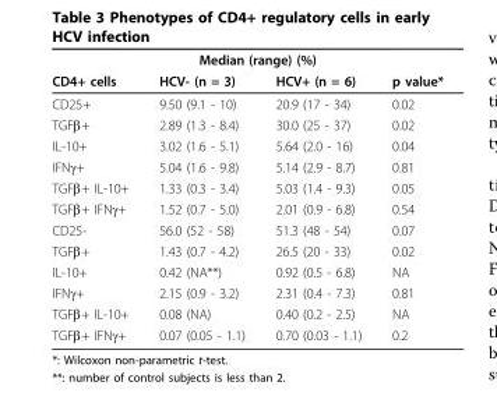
<table><thead><tr><td colspan="4">Median (range) (%)</td></tr><tr><td>CD4+ cells</td><td>HCV- (n = 3)</td><td>HCV+ (n = 6)</td><td>p value*</td></tr></thead><tbody><tr><td>CD25+</td><td>9.50 (9.1 - 10)</td><td>20.9 (17 - 34)</td><td>0.02</td></tr><tr><td>TGFβ+</td><td>2.89 (1.3 - 8.4)</td><td>30.0 (25 - 37)</td><td>0.02</td></tr><tr><td>IL-10+</td><td>3.02 (1.6 - 5.1)</td><td>5.64 (2.0 - 16)</td><td>0.04</td></tr><tr><td>IFNγ+</td><td>5.04 (1.6 - 9.8)</td><td>5.14 (2.9 - 8.7)</td><td>0.81</td></tr><tr><td>TGFβ+ IL-10+</td><td>1.33 (0.3 - 3.4)</td><td>5.03 (1.4 - 9.3)</td><td>0.05</td></tr><tr><td>TGFβ+ IFNγ+</td><td>1.52 (0.7 - 5.0)</td><td>2.01 (0.9 - 6.8)</td><td>0.54</td></tr><tr><td>CD25-</td><td>56.0 (52 - 58)</td><td>51.3 (48 - 54)</td><td>0.07</td></tr><tr><td>TGFβ+</td><td>1.43 (0.7 - 4.2)</td><td>26.5 (20 - 33)</td><td>0.02</td></tr><tr><td>IL-10+</td><td>0.42 (NA**)</td><td>0.92 (0.5 - 6.8)</td><td>NA</td></tr><tr><td>IFNγ+</td><td>2.15 (0.9 - 3.2)</td><td>2.31 (0.4 - 7.3)</td><td>0.81</td></tr><tr><td>TGFβ+ IL-10+</td><td>0.08 (NA)</td><td>0.40 (0.2 - 2.5)</td><td>NA</td></tr><tr><td>TGFβ+ IFNγ+</td><td>0.07 (0.05 - 1.1)</td><td>0.70 (0.03 - 1.1)</td><td>0.2</td></tr></tbody></table>